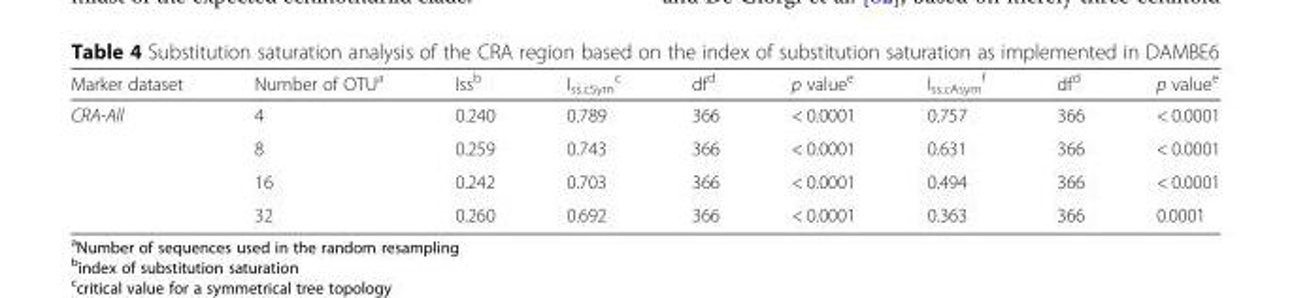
<table><thead><tr><td>Marker dataset</td><td>Number of OTU<sup>a</sup></td><td>Iss<sup>b</sup></td><td>I<sub>ss.cSym</sub> <sup>c</sup></td><td>df<sup>d</sup></td><td>p value<sup>e</sup></td><td>I<sub>ss.cAsym</sub> <sup>f</sup></td><td>df<sup>d</sup></td><td>p value<sup>e</sup></td></tr></thead><tbody><tr><td rowspan="4">CRA-All</td><td>4</td><td>0.240</td><td>0.789</td><td>366</td><td>&lt; 0.0001</td><td>0.757</td><td>366</td><td>&lt; 0.0001</td></tr><tr><td>8</td><td>0.259</td><td>0.743</td><td>366</td><td>&lt; 0.0001</td><td>0.631</td><td>366</td><td>&lt; 0.0001</td></tr><tr><td>16</td><td>0.242</td><td>0.703</td><td>366</td><td>&lt; 0.0001</td><td>0.494</td><td>366</td><td>&lt; 0.0001</td></tr><tr><td>32</td><td>0.260</td><td>0.692</td><td>366</td><td>&lt; 0.0001</td><td>0.363</td><td>366</td><td>0.0001</td></tr></tbody></table>